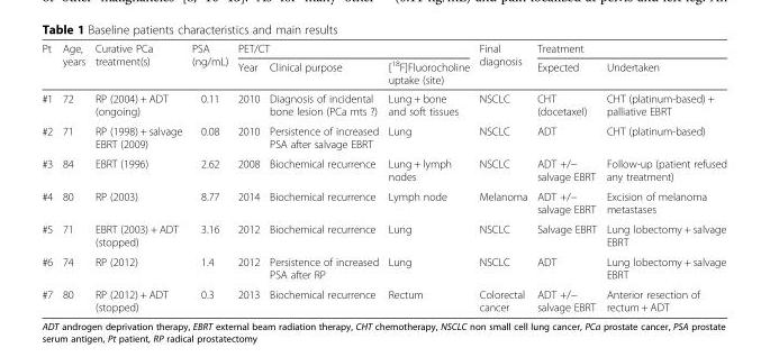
<table><thead><tr><td rowspan="2">Pt</td><td rowspan="2">Age, years</td><td rowspan="2">Curative PCa treatment(s)</td><td rowspan="2">PSA (ng/mL)</td><td colspan="3">PET/CT</td><td rowspan="2">Final diagnosis</td><td colspan="2">Treatment</td></tr><tr><td>Year</td><td>Clinical purpose</td><td>[<sup>18</sup>F]Fluorocholine uptake (site)</td><td>Expected</td><td>Undertaken</td></tr></thead><tbody><tr><td>#1</td><td>72</td><td>RP (2004) + ADT (ongoing)</td><td>0.11</td><td>2010</td><td>Diagnosis of incidental bone lesion (PCa mts ?)</td><td>Lung + bone and soft tissues</td><td>NSCLC</td><td>CHT (docetaxel)</td><td>CHT (platinum-based) + palliative EBRT</td></tr><tr><td>#2</td><td>71</td><td>RP (1998) + salvage EBRT (2009)</td><td>0.08</td><td>2010</td><td>Persistence of increased PSA after salvage EBRT</td><td>Lung</td><td>NSCLC</td><td>ADT</td><td>CHT (platinum-based)</td></tr><tr><td>#3</td><td>84</td><td>EBRT (1996)</td><td>2.62</td><td>2008</td><td>Biochemical recurrence</td><td>Lung + lymph nodes</td><td>NSCLC</td><td>ADT +/− salvage EBRT</td><td>Follow-up (patient refused any treatment)</td></tr><tr><td>#4</td><td>80</td><td>RP (2003)</td><td>8.77</td><td>2014</td><td>Biochemical recurrence</td><td>Lymph node</td><td>Melanoma</td><td>ADT +/− salvage EBRT</td><td>Excision of melanoma metastases</td></tr><tr><td>#5</td><td>71</td><td>EBRT (2003) + ADT (stopped)</td><td>3.16</td><td>2012</td><td>Biochemical recurrence</td><td>Lung</td><td>NSCLC</td><td>Salvage EBRT</td><td>Lung lobectomy + salvage EBRT</td></tr><tr><td>#6</td><td>74</td><td>RP (2012)</td><td>1.4</td><td>2012</td><td>Persistence of increased PSA after RP</td><td>Lung</td><td>NSCLC</td><td>ADT</td><td>Lung lobectomy + salvage EBRT</td></tr><tr><td>#7</td><td>80</td><td>RP (2012) + ADT (stopped)</td><td>0.3</td><td>2013</td><td>Biochemical recurrence</td><td>Rectum</td><td>Colorectal cancer</td><td>ADT +/− salvage EBRT</td><td>Anterior resection of rectum + ADT</td></tr></tbody></table>